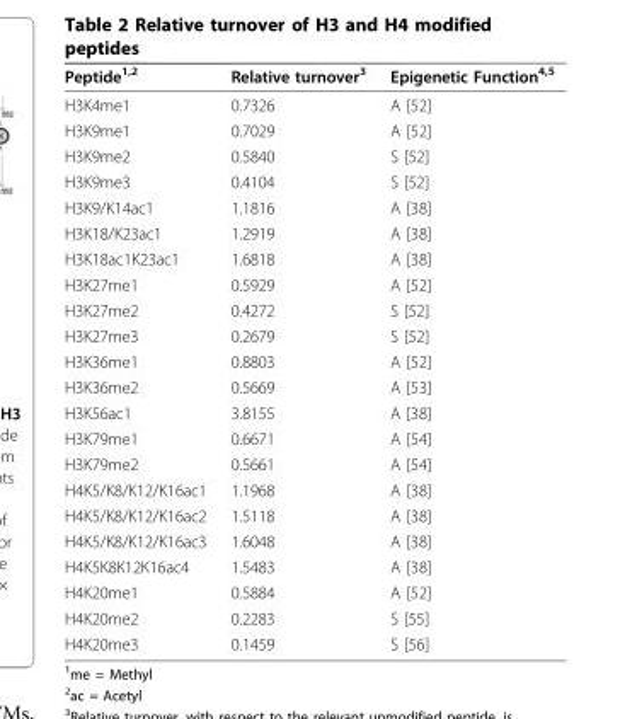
<table><thead><tr><td>Peptide<sup>1,2</sup></td><td>Relative turnover<sup>3</sup></td><td>Epigenetic Function<sup>4,5</sup></td></tr></thead><tbody><tr><td>H3K4me1</td><td>0.7326</td><td>A [52]</td></tr><tr><td>H3K9me1</td><td>0.7029</td><td>A [52]</td></tr><tr><td>H3K9me2</td><td>0.5840</td><td>S [52]</td></tr><tr><td>H3K9me3</td><td>0.4104</td><td>S [52]</td></tr><tr><td>H3K9/K14ac1</td><td>1.1816</td><td>A [38]</td></tr><tr><td>H3K18/K23ac1</td><td>1.2919</td><td>A [38]</td></tr><tr><td>H3K18ac1K23ac1</td><td>1.6818</td><td>A [38]</td></tr><tr><td>H3K27me1</td><td>0.5929</td><td>A [52]</td></tr><tr><td>H3K27me2</td><td>0.4272</td><td>S [52]</td></tr><tr><td>H3K27me3</td><td>0.2679</td><td>S [52]</td></tr><tr><td>H3K36me1</td><td>0.8803</td><td>A [52]</td></tr><tr><td>H3K36me2</td><td>0.5669</td><td>A [53]</td></tr><tr><td>H3K56ac1</td><td>3.8155</td><td>A [38]</td></tr><tr><td>H3K79me1</td><td>0.6671</td><td>A [54]</td></tr><tr><td>H3K79me2</td><td>0.5661</td><td>A [54]</td></tr><tr><td>H4K5/K8/K12/K16ac1</td><td>1.1968</td><td>A [38]</td></tr><tr><td>H4K5/K8/K12/K16ac2</td><td>1.5118</td><td>A [38]</td></tr><tr><td>H4K5/K8/K12/K16ac3</td><td>1.6048</td><td>A [38]</td></tr><tr><td>H4K5K8K12K16ac4</td><td>1.5483</td><td>A [38]</td></tr><tr><td>H4K20me1</td><td>0.5884</td><td>A [52]</td></tr><tr><td>H4K20me2</td><td>0.2283</td><td>S [55]</td></tr><tr><td>H4K20me3</td><td>0.1459</td><td>S [56]</td></tr></tbody></table>